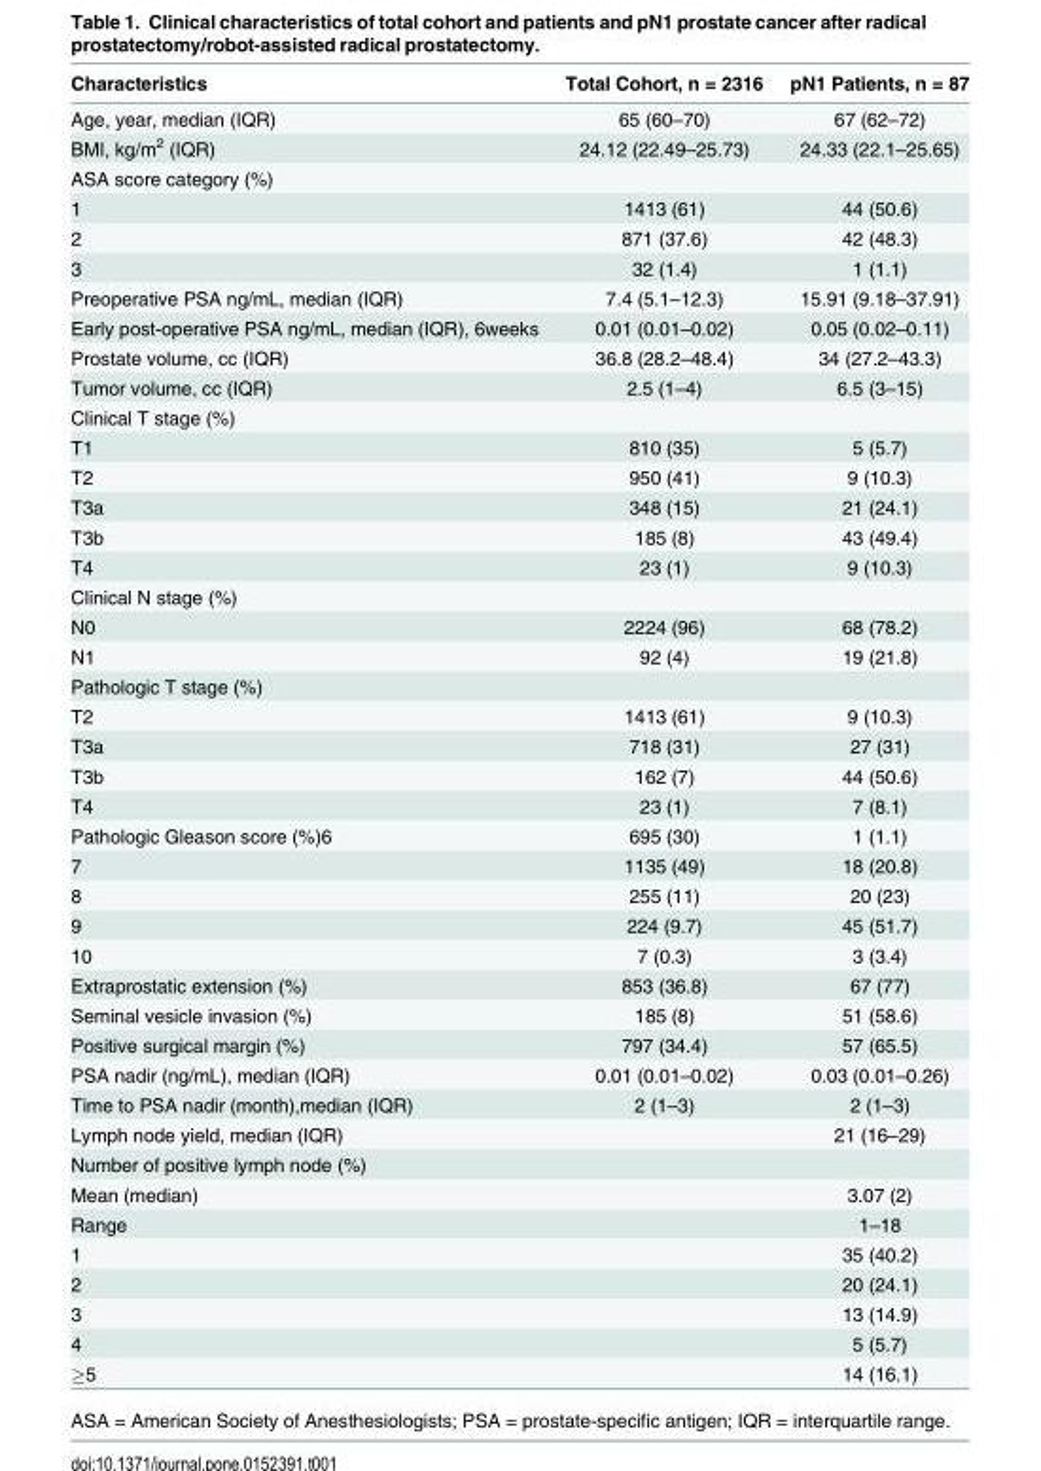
<table><thead><tr><td>Characteristics</td><td>Total Cohort, n = 2316</td><td>pN1 Patients, n = 87</td></tr></thead><tbody><tr><td>Age, year, median (IQR)</td><td>65 (60–70)</td><td>67 (62–72)</td></tr><tr><td>BMI, kg/m<sup>2</sup> (IQR)</td><td>24.12 (22.49–25.73)</td><td>24.33 (22.1–25.65)</td></tr><tr><td colspan="3">ASA score category (%)</td></tr><tr><td>1</td><td>1413 (61)</td><td>44 (50.6)</td></tr><tr><td>2</td><td>871 (37.6)</td><td>42 (48.3)</td></tr><tr><td>3</td><td>32 (1.4)</td><td>1 (1.1)</td></tr><tr><td>Preoperative PSA ng/mL, median (IQR)</td><td>7.4 (5.1–12.3)</td><td>15.91 (9.18–37.91)</td></tr><tr><td>Early post-operative PSA ng/mL, median (IQR), 6weeks</td><td>0.01 (0.01–0.02)</td><td>0.05 (0.02–0.11)</td></tr><tr><td>Prostate volume, cc (IQR)</td><td>36.8 (28.2–48.4)</td><td>34 (27.2–43.3)</td></tr><tr><td>Tumor volume, cc (IQR)</td><td>2.5 (1–4)</td><td>6.5 (3–15)</td></tr><tr><td colspan="3">Clinical T stage (%)</td></tr><tr><td>T1</td><td>810 (35)</td><td>5 (5.7)</td></tr><tr><td>T2</td><td>950 (41)</td><td>9 (10.3)</td></tr><tr><td>T3a</td><td>348 (15)</td><td>21 (24.1)</td></tr><tr><td>T3b</td><td>185 (8)</td><td>43 (49.4)</td></tr><tr><td>T4</td><td>23 (1)</td><td>9 (10.3)</td></tr><tr><td colspan="3">Clinical N stage (%)</td></tr><tr><td>N0</td><td>2224 (96)</td><td>68 (78.2)</td></tr><tr><td>N1</td><td>92 (4)</td><td>19 (21.8)</td></tr><tr><td colspan="3">Pathologic T stage (%)</td></tr><tr><td>T2</td><td>1413 (61)</td><td>9 (10.3)</td></tr><tr><td>T3a</td><td>718 (31)</td><td>27 (31)</td></tr><tr><td>T3b</td><td>162 (7)</td><td>44 (50.6)</td></tr><tr><td>T4</td><td>23 (1)</td><td>7 (8.1)</td></tr><tr><td>Pathologic Gleason score (%)6</td><td>695 (30)</td><td>1 (1.1)</td></tr><tr><td>7</td><td>1135 (49)</td><td>18 (20.8)</td></tr><tr><td>8</td><td>255 (11)</td><td>20 (23)</td></tr><tr><td>9</td><td>224 (9.7)</td><td>45 (51.7)</td></tr><tr><td>10</td><td>7 (0.3)</td><td>3 (3.4)</td></tr><tr><td>Extraprostatic extension (%)</td><td>853 (36.8)</td><td>67 (77)</td></tr><tr><td>Seminal vesicle invasion (%)</td><td>185 (8)</td><td>51 (58.6)</td></tr><tr><td>Positive surgical margin (%)</td><td>797 (34.4)</td><td>57 (65.5)</td></tr><tr><td>PSA nadir (ng/mL), median (IQR)</td><td>0.01 (0.01–0.02)</td><td>0.03 (0.01–0.26)</td></tr><tr><td>Time to PSA nadir (month),median (IQR)</td><td>2 (1–3)</td><td>2 (1–3)</td></tr><tr><td>Lymph node yield, median (IQR)</td><td></td><td>21 (16–29)</td></tr><tr><td colspan="3">Number of positive lymph node (%)</td></tr><tr><td>Mean (median)</td><td></td><td>3.07 (2)</td></tr><tr><td>Range</td><td></td><td>1–18</td></tr><tr><td>1</td><td></td><td>35 (40.2)</td></tr><tr><td>2</td><td></td><td>20 (24.1)</td></tr><tr><td>3</td><td></td><td>13 (14.9)</td></tr><tr><td>4</td><td></td><td>5 (5.7)</td></tr><tr><td>≥5</td><td></td><td>14 (16.1)</td></tr></tbody></table>